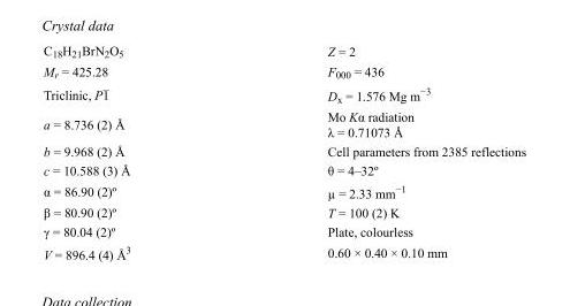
<table><tbody><tr><td>C<sub>18</sub>H<sub>21</sub>BrN<sub>2</sub>O<sub>5</sub></td><td>Z = 2</td></tr><tr><td>M<sub>r</sub> = 425.28</td><td>F<sub>000</sub> = 436</td></tr><tr><td>Triclinic, P1</td><td>D<sub>x</sub> = 1.576 Mg m<sup>−3</sup></td></tr><tr><td>a = 8.736 (2) Å</td><td>Mo Kα radiation λ = 0.71073 Å</td></tr><tr><td>b = 9.968 (2) Å</td><td>Cell parameters from 2385 reflections</td></tr><tr><td>c = 10.588 (3) Å</td><td>θ = 4–32º</td></tr><tr><td>α = 86.90 (2)º</td><td>µ = 2.33 mm<sup>−1</sup></td></tr><tr><td>β = 80.90 (2)º</td><td>T = 100 (2) K</td></tr><tr><td>γ = 80.04 (2)º</td><td>Plate, colourless</td></tr><tr><td>V = 896.4 (4) Å<sup>3</sup></td><td>0.60 × 0.40 × 0.10 mm</td></tr></tbody></table>